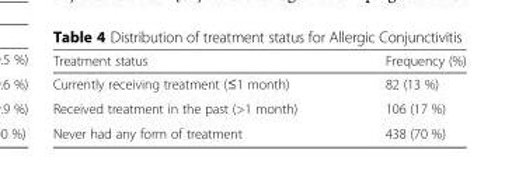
<table><thead><tr><td>Treatment status</td><td>Frequency (%)</td></tr></thead><tbody><tr><td>Currently receiving treatment (≤1 month)</td><td>82 (13 %)</td></tr><tr><td>Received treatment in the past (&gt;1 month)</td><td>106 (17 %)</td></tr><tr><td>Never had any form of treatment</td><td>438 (70 %)</td></tr></tbody></table>